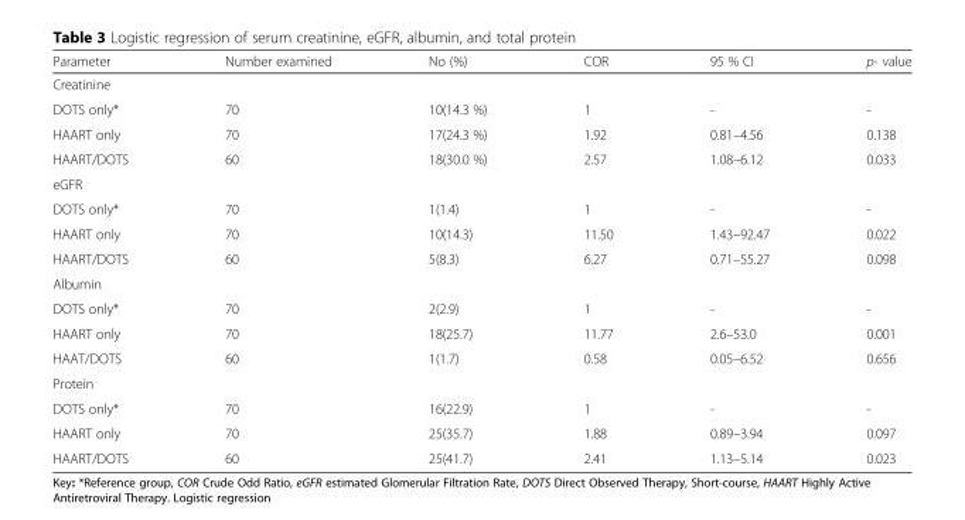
<table><thead><tr><td>Parameter</td><td>Number examined</td><td>No (%)</td><td>COR</td><td>95 % CI</td><td>p- value</td></tr></thead><tbody><tr><td colspan="6">Creatinine</td></tr><tr><td>DOTS only*</td><td>70</td><td>10(14.3 %)</td><td>1</td><td>-</td><td>-</td></tr><tr><td>HAART only</td><td>70</td><td>17(24.3 %)</td><td>1.92</td><td>0.81–4.56</td><td>0.138</td></tr><tr><td>HAART/DOTS</td><td>60</td><td>18(30.0 %)</td><td>2.57</td><td>1.08–6.12</td><td>0.033</td></tr><tr><td colspan="6">eGFR</td></tr><tr><td>DOTS only*</td><td>70</td><td>1(1.4)</td><td>1</td><td>-</td><td>-</td></tr><tr><td>HAART only</td><td>70</td><td>10(14.3)</td><td>11.50</td><td>1.43–92.47</td><td>0.022</td></tr><tr><td>HAART/DOTS</td><td>60</td><td>5(8.3)</td><td>6.27</td><td>0.71–55.27</td><td>0.098</td></tr><tr><td colspan="6">Albumin</td></tr><tr><td>DOTS only*</td><td>70</td><td>2(2.9)</td><td>1</td><td>-</td><td>-</td></tr><tr><td>HAART only</td><td>70</td><td>18(25.7)</td><td>11.77</td><td>2.6–53.0</td><td>0.001</td></tr><tr><td>HAAT/DOTS</td><td>60</td><td>1(1.7)</td><td>0.58</td><td>0.05–6.52</td><td>0.656</td></tr><tr><td colspan="6">Protein</td></tr><tr><td>DOTS only*</td><td>70</td><td>16(22.9)</td><td>1</td><td>-</td><td>-</td></tr><tr><td>HAART only</td><td>70</td><td>25(35.7)</td><td>1.88</td><td>0.89–3.94</td><td>0.097</td></tr><tr><td>HAART/DOTS</td><td>60</td><td>25(41.7)</td><td>2.41</td><td>1.13–5.14</td><td>0.023</td></tr></tbody></table>